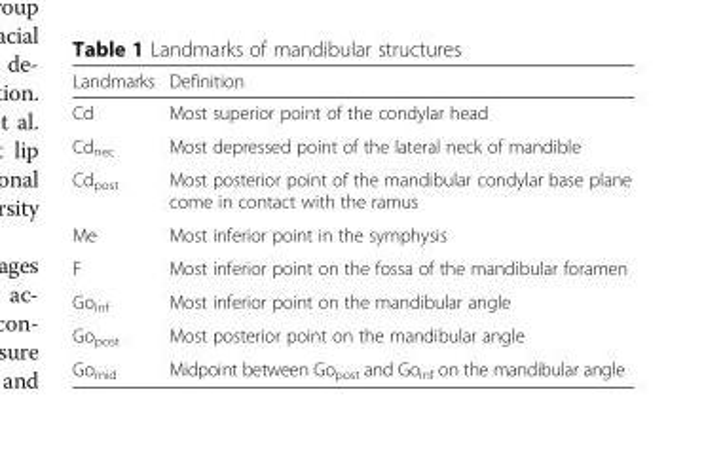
<table><thead><tr><td>Landmarks</td><td>Definition</td></tr></thead><tbody><tr><td>Cd</td><td>Most superior point of the condylar head</td></tr><tr><td>Cd<sub>nec</sub></td><td>Most depressed point of the lateral neck of mandible</td></tr><tr><td>Cd<sub>post</sub></td><td>Most posterior point of the mandibular condylar base plane come in contact with the ramus</td></tr><tr><td>Me</td><td>Most inferior point in the symphysis</td></tr><tr><td>F</td><td>Most inferior point on the fossa of the mandibular foramen</td></tr><tr><td>Go<sub>inf</sub></td><td>Most inferior point on the mandibular angle</td></tr><tr><td>Go<sub>post</sub></td><td>Most posterior point on the mandibular angle</td></tr><tr><td>Go<sub>mid</sub></td><td>Midpoint between Go<sub>post</sub> and Go<sub>inf</sub> on the mandibular angle</td></tr></tbody></table>